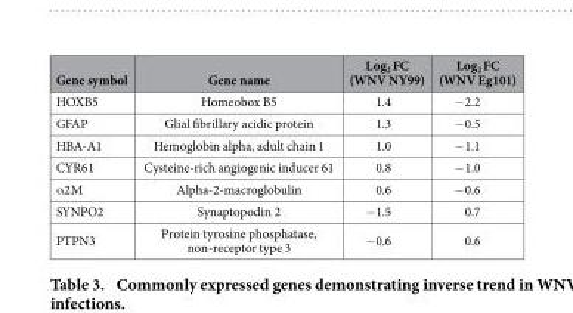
<table><thead><tr><td>Gene symbol</td><td>Gene name</td><td>Log<sub>2</sub> FC (WNV NY99)</td><td>Log<sub>2</sub> FC (WNV Eg101)</td></tr></thead><tbody><tr><td>HOXB5</td><td>Homeobox B5</td><td>1.4</td><td>− 2.2</td></tr><tr><td>GFAP</td><td>Glial fibrillary acidic protein</td><td>1.3</td><td>− 0.5</td></tr><tr><td>HBA-A1</td><td>Hemoglobin alpha, adult chain 1</td><td>1.0</td><td>− 1.1</td></tr><tr><td>CYR61</td><td>Cysteine-rich angiogenic inducer 61</td><td>0.8</td><td>− 1.0</td></tr><tr><td>α 2M</td><td>Alpha-2-macroglobulin</td><td>0.6</td><td>− 0.6</td></tr><tr><td>SYNPO2</td><td>Synaptopodin 2</td><td>− 1.5</td><td>0.7</td></tr><tr><td>PTPN3</td><td>Protein tyrosine phosphatase, non-receptor type 3</td><td>− 0.6</td><td>0.6</td></tr></tbody></table>